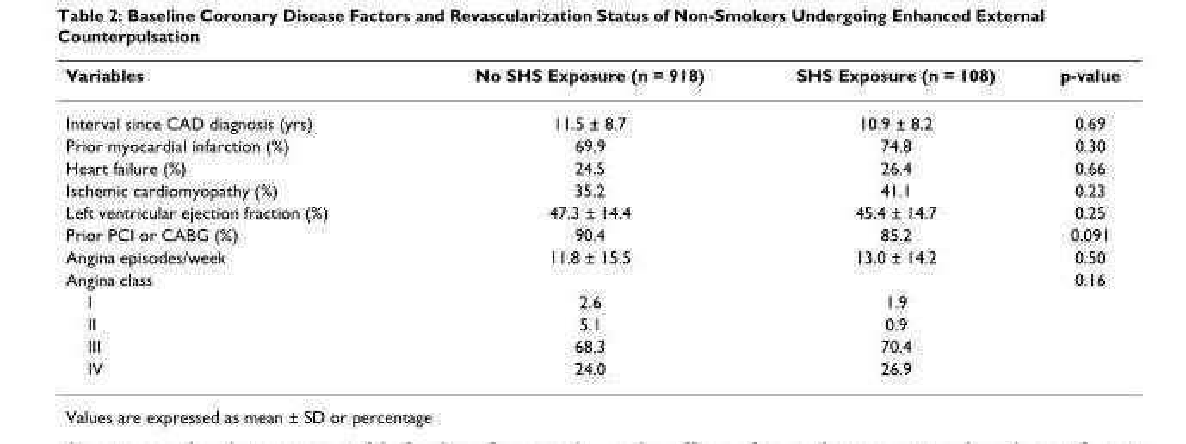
<table><thead><tr><td>Variables</td><td>No SHS Exposure (n = 918)</td><td>SHS Exposure (n = 108)</td><td>p-value</td></tr></thead><tbody><tr><td>Interval since CAD diagnosis (yrs)</td><td>11.5 ± 8.7</td><td>10.9 ± 8.2</td><td>0.69</td></tr><tr><td>Prior myocardial infarction (%)</td><td>69.9</td><td>74.8</td><td>0.30</td></tr><tr><td>Heart failure (%)</td><td>24.5</td><td>26.4</td><td>0.66</td></tr><tr><td>Ischemic cardiomyopathy (%)</td><td>35.2</td><td>41.1</td><td>0.23</td></tr><tr><td>Left ventricular ejection fraction (%)</td><td>47.3 ± 14.4</td><td>45.4 ± 14.7</td><td>0.25</td></tr><tr><td>Prior PCI or CABG (%)</td><td>90.4</td><td>85.2</td><td>0.091</td></tr><tr><td>Angina episodes/week</td><td>11.8 ± 15.5</td><td>13.0 ± 14.2</td><td>0.50</td></tr><tr><td>Angina class</td><td></td><td></td><td>0.16</td></tr><tr><td>I</td><td>2.6</td><td>1.9</td><td></td></tr><tr><td>II</td><td>5.1</td><td>0.9</td><td></td></tr><tr><td>III</td><td>68.3</td><td>70.4</td><td></td></tr><tr><td>IV</td><td>24.0</td><td>26.9</td><td></td></tr></tbody></table>